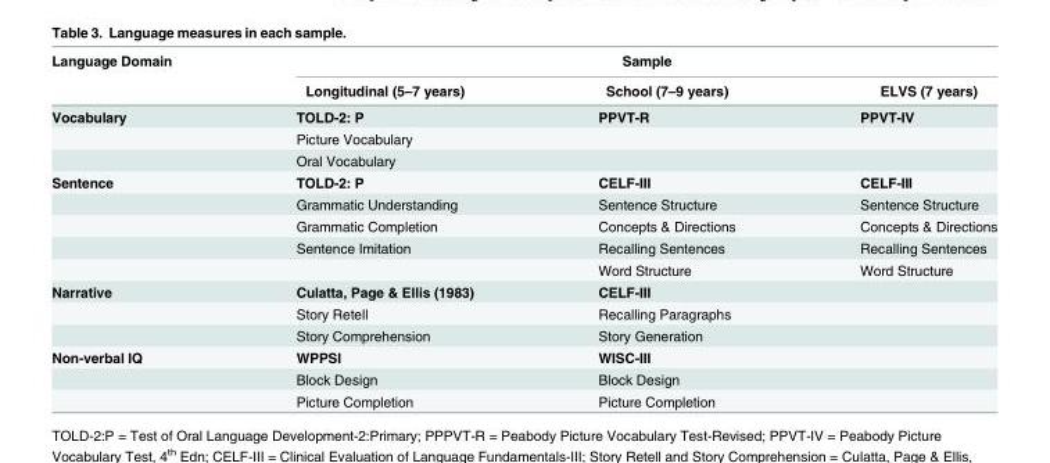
<table><thead><tr><td rowspan="2">Language Domain</td><td colspan="3">Sample</td></tr><tr><td>Longitudinal (5–7 years)</td><td>School (7–9 years)</td><td>ELVS (7 years)</td></tr></thead><tbody><tr><td rowspan="3">Vocabulary</td><td>TOLD-2: P</td><td>PPVT-R</td><td>PPVT-IV</td></tr><tr><td>Picture Vocabulary</td><td></td><td></td></tr><tr><td>Oral Vocabulary</td><td></td><td></td></tr><tr><td rowspan="5">Sentence</td><td>TOLD-2: P</td><td>CELF-III</td><td>CELF-III</td></tr><tr><td>Grammatic Understanding</td><td>Sentence Structure</td><td>Sentence Structure</td></tr><tr><td>Grammatic Completion</td><td>Concepts &amp; Directions</td><td>Concepts &amp; Directions</td></tr><tr><td>Sentence Imitation</td><td>Recalling Sentences</td><td>Recalling Sentences</td></tr><tr><td></td><td>Word Structure</td><td>Word Structure</td></tr><tr><td rowspan="3">Narrative</td><td>Culatta, Page &amp; Ellis (1983)</td><td>CELF-III</td><td></td></tr><tr><td>Story Retell</td><td>Recalling Paragraphs</td><td></td></tr><tr><td>Story Comprehension</td><td>Story Generation</td><td></td></tr><tr><td rowspan="3">Non-verbal IQ</td><td>WPPSI</td><td>WISC-III</td><td></td></tr><tr><td>Block Design</td><td>Block Design</td><td></td></tr><tr><td>Picture Completion</td><td>Picture Completion</td><td></td></tr></tbody></table>